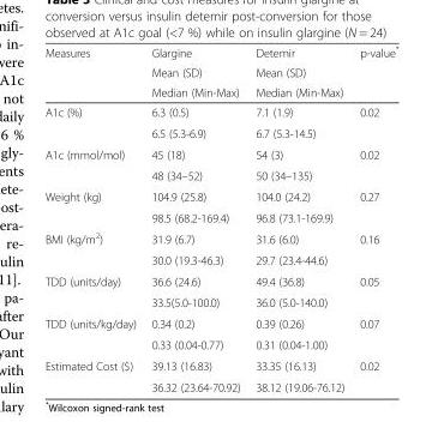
<table><thead><tr><td rowspan="3">Measures</td><td rowspan="3">Glargine Mean (SD) Median (Min-Max)</td><td rowspan="3">Detemir Mean (SD) Median (Min-Max)</td><td rowspan="3">p-value*</td></tr><tr></tr><tr></tr></thead><tbody><tr><td rowspan="2">A1c (%)</td><td>6.3 (0.5)</td><td>7.1 (1.9)</td><td rowspan="2">0.02</td></tr><tr><td>6.5 (5.3-6.9)</td><td>6.7 (5.3-14.5)</td></tr><tr><td rowspan="2">A1c (mmol/mol)</td><td>45 (18)</td><td>54 (3)</td><td rowspan="2">0.02</td></tr><tr><td>48 (34–52)</td><td>50 (34–135)</td></tr><tr><td rowspan="2">Weight (kg)</td><td>104.9 (25.8)</td><td>104.0 (24.2)</td><td rowspan="2">0.27</td></tr><tr><td>98.5 (68.2-169.4)</td><td>96.8 (73.1-169.9)</td></tr><tr><td rowspan="2">BMI (kg/m<sup>2</sup>)</td><td>31.9 (6.7)</td><td>31.6 (6.0)</td><td rowspan="2">0.16</td></tr><tr><td>30.0 (19.3-46.3)</td><td>29.7 (23.4-44.6)</td></tr><tr><td rowspan="2">TDD (units/day)</td><td>36.6 (24.6)</td><td>49.4 (36.8)</td><td rowspan="2">0.05</td></tr><tr><td>33.5(5.0-100.0)</td><td>36.0 (5.0-140.0)</td></tr><tr><td rowspan="2">TDD (units/kg/day)</td><td>0.34 (0.2)</td><td>0.39 (0.26)</td><td rowspan="2">0.07</td></tr><tr><td>0.33 (0.04-0.77)</td><td>0.31 (0.04-1.00)</td></tr><tr><td rowspan="2">Estimated Cost ($)</td><td>39.13 (16.83)</td><td>33.35 (16.13)</td><td rowspan="2">0.02</td></tr><tr><td>36.32 (23.64-70.92)</td><td>38.12 (19.06-76.12)</td></tr></tbody></table>